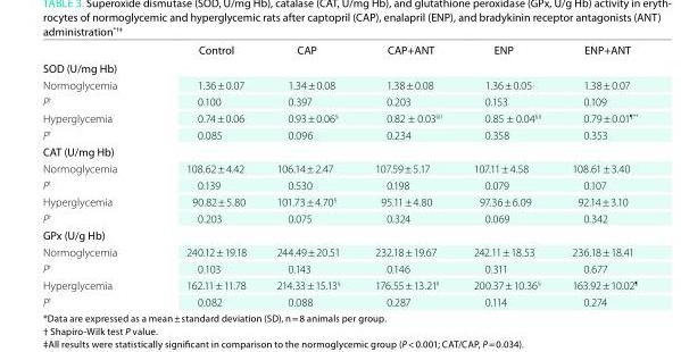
<table><thead><tr><td></td><td>Control</td><td>CAP</td><td>CAP+ANt</td><td>ENP</td><td>ENP+ANt</td></tr></thead><tbody><tr><td colspan="6">sOD (u/mg Hb)</td></tr><tr><td>Normoglycemia</td><td>1.36 ± 0.07</td><td>1.34 ± 0.08</td><td>1.38 ± 0.08</td><td>1.36 ± 0.05</td><td>1.38 ± 0.07</td></tr><tr><td>P<sup>†</sup></td><td>0.100</td><td>0.397</td><td>0.203</td><td>0.153</td><td>0.109</td></tr><tr><td>Hyperglycemia</td><td>0.74 ± 0.06</td><td>0.93 ± 0.06<sup>§</sup></td><td>0.82 ± 0.03§II</td><td>0.85 ± 0.04§II</td><td>0.79 ± 0.01<sup>¶**</sup></td></tr><tr><td>P<sup>†</sup></td><td>0.085</td><td>0.096</td><td>0.234</td><td>0.358</td><td>0.353</td></tr><tr><td colspan="6">CAt (u/mg Hb)</td></tr><tr><td>Normoglycemia</td><td>108.62 ± 4.42</td><td>106.14 ± 2.47</td><td>107.59 ± 5.17</td><td>107.11 ± 4.58</td><td>108.61 ± 3.40</td></tr><tr><td>P<sup>†</sup></td><td>0.139</td><td>0.530</td><td>0.198</td><td>0.079</td><td>0.107</td></tr><tr><td>Hyperglycemia</td><td>90.82 ± 5.80</td><td>101.73 ± 4.70<sup>§</sup></td><td>95.11 ± 4.80</td><td>97.36 ± 6.09</td><td>92.14 ± 3.10</td></tr><tr><td>P<sup>†</sup></td><td>0.203</td><td>0.075</td><td>0.324</td><td>0.069</td><td>0.342</td></tr><tr><td colspan="6">GPx (u/g Hb)</td></tr><tr><td>Normoglycemia</td><td>240.12 ± 19.18</td><td>244.49 ± 20.51</td><td>232.18 ± 19.67</td><td>242.11 ± 18.53</td><td>236.18 ± 18.41</td></tr><tr><td>P<sup>†</sup></td><td>0.103</td><td>0.143</td><td>0.146</td><td>0.311</td><td>0.677</td></tr><tr><td>Hyperglycemia</td><td>162.11 ± 11.78</td><td>214.33 ± 15.13<sup>§</sup></td><td>176.55 ± 13.21II</td><td>200.37 ± 10.36<sup>§</sup></td><td>163.92 ± 10.02<sup>¶</sup></td></tr><tr><td>P<sup>†</sup></td><td>0.082</td><td>0.088</td><td>0.287</td><td>0.114</td><td>0.274</td></tr></tbody></table>